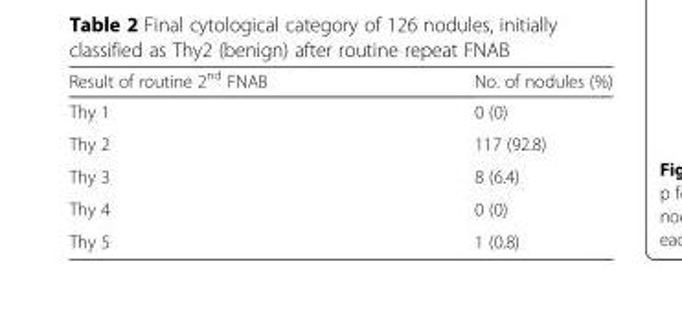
<table><thead><tr><td>Result of routine 2<sup>nd</sup> FNAB</td><td>No. of nodules (%)</td></tr></thead><tbody><tr><td>Thy 1</td><td>0 (0)</td></tr><tr><td>Thy 2</td><td>117 (92.8)</td></tr><tr><td>Thy 3</td><td>8 (6.4)</td></tr><tr><td>Thy 4</td><td>0 (0)</td></tr><tr><td>Thy 5</td><td>1 (0.8)</td></tr></tbody></table>